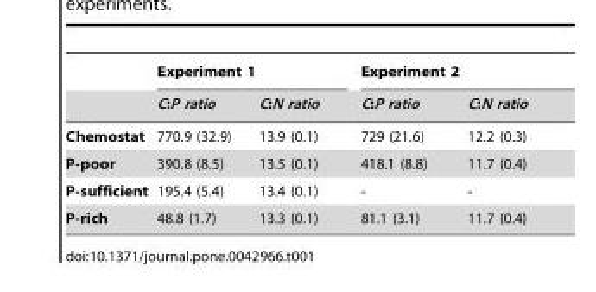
<table><thead><tr><td rowspan="2"></td><td colspan="2">Experiment 1</td><td colspan="2">Experiment 2</td></tr><tr><td>C:P ratio</td><td>C:N ratio</td><td>C:P ratio</td><td>C:N ratio</td></tr></thead><tbody><tr><td>Chemostat</td><td>770.9 (32.9)</td><td>13.9 (0.1)</td><td>729 (21.6)</td><td>12.2 (0.3)</td></tr><tr><td>P-poor</td><td>390.8 (8.5)</td><td>13.5 (0.1)</td><td>418.1 (8.8)</td><td>11.7 (0.4)</td></tr><tr><td>P-sufficient</td><td>195.4 (5.4)</td><td>13.4 (0.1)</td><td>-</td><td>-</td></tr><tr><td>P-rich</td><td>48.8 (1.7)</td><td>13.3 (0.1)</td><td>81.1 (3.1)</td><td>11.7 (0.4)</td></tr></tbody></table>